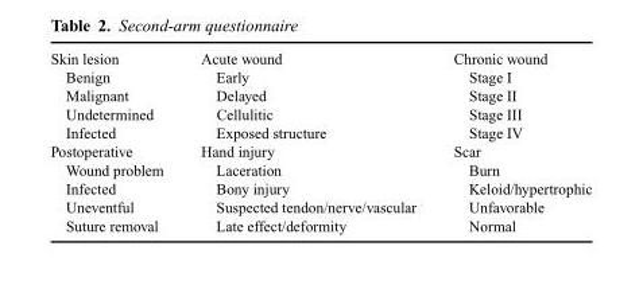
<table><tbody><tr><td>Skin lesion</td><td>Acute wound</td><td>Chronic wound</td></tr><tr><td>Benign</td><td>Early</td><td>Stage I</td></tr><tr><td>Malignant</td><td>Delayed</td><td>Stage II</td></tr><tr><td>Undetermined</td><td>Cellulitic</td><td>Stage III</td></tr><tr><td>Infected</td><td>Exposed structure</td><td>Stage IV</td></tr><tr><td>Postoperative</td><td>Hand injury</td><td>Scar</td></tr><tr><td>Wound problem</td><td>Laceration</td><td>Burn</td></tr><tr><td>Infected</td><td>Bony injury</td><td>Keloid/hypertrophic</td></tr><tr><td>Uneventful</td><td>Suspected tendon/nerve/vascular</td><td>Unfavorable</td></tr><tr><td>Suture removal</td><td>Late effect/deformity</td><td>Normal</td></tr></tbody></table>